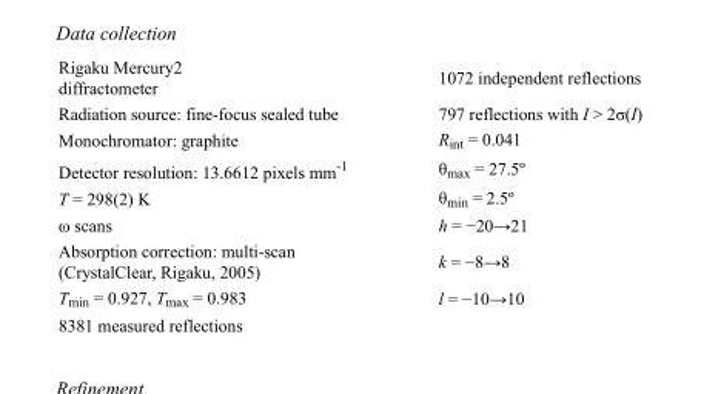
<table><tbody><tr><td>Rigaku Mercury2 diffractometer</td><td>1072 independent reflections</td></tr><tr><td>Radiation source: fine-focus sealed tube</td><td>797 reflections with I &gt; 2σ(I)</td></tr><tr><td>Monochromator: graphite</td><td>R<sub>int</sub> = 0.041</td></tr><tr><td>Detector resolution: 13.6612 pixels mm<sup>-1</sup></td><td>θ<sub>max</sub> = 27.5º</td></tr><tr><td>T = 298(2) K</td><td>θ<sub>min</sub> = 2.5º</td></tr><tr><td>ω scans</td><td>h = −20→21</td></tr><tr><td>Absorption correction: multi-scan (CrystalClear, Rigaku, 2005)</td><td>k = −8→8</td></tr><tr><td>T<sub>min</sub> = 0.927, T<sub>max</sub> = 0.983</td><td>l = −10→10</td></tr><tr><td>8381 measured reflections</td><td></td></tr></tbody></table>